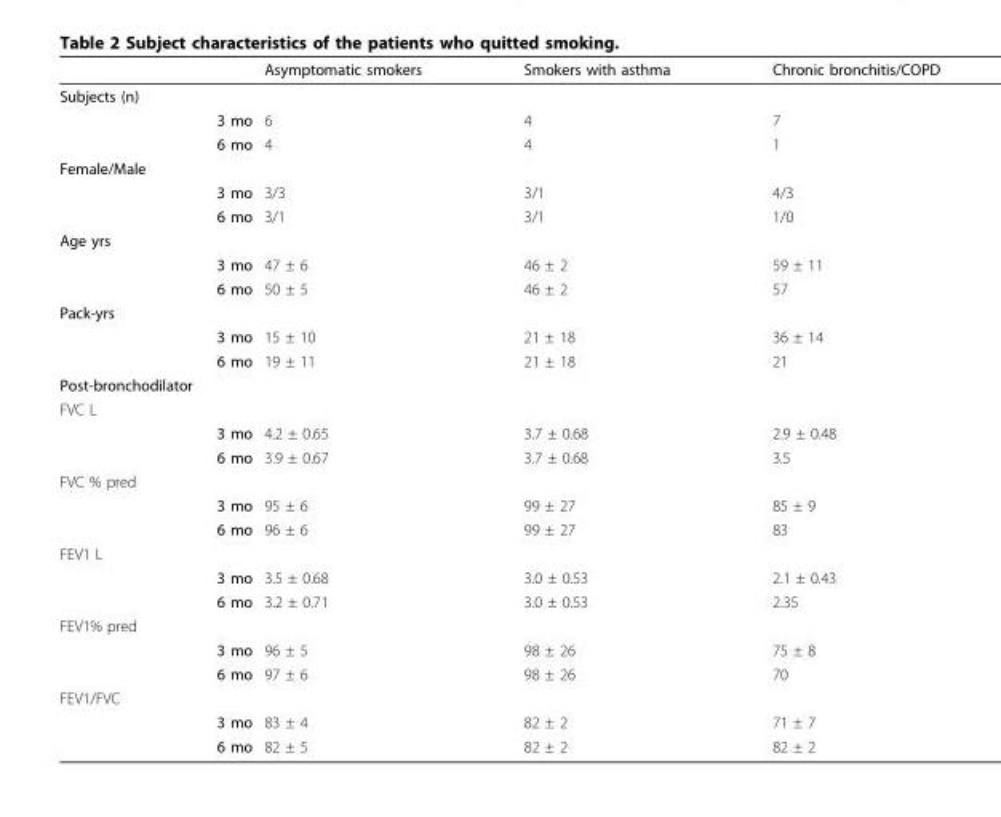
<table><thead><tr><td></td><td>Asymptomatic smokers</td><td>Smokers with asthma</td><td>Chronic bronchitis/COPD</td></tr></thead><tbody><tr><td colspan="4">Subjects (n)</td></tr><tr><td>3 mo</td><td>6</td><td>4</td><td>7</td></tr><tr><td>6 mo</td><td>4</td><td>4</td><td>1</td></tr><tr><td colspan="4">Female/Male</td></tr><tr><td>3 mo</td><td>3/3</td><td>3/1</td><td>4/3</td></tr><tr><td>6 mo</td><td>3/1</td><td>3/1</td><td>1/0</td></tr><tr><td colspan="4">Age yrs</td></tr><tr><td>3 mo</td><td>47 ± 6</td><td>46 ± 2</td><td>59 ± 11</td></tr><tr><td>6 mo</td><td>50 ± 5</td><td>46 ± 2</td><td>57</td></tr><tr><td colspan="4">Pack-yrs</td></tr><tr><td>3 mo</td><td>15 ± 10</td><td>21 ± 18</td><td>36 ± 14</td></tr><tr><td>6 mo</td><td>19 ± 11</td><td>21 ± 18</td><td>21</td></tr><tr><td colspan="4">Post-bronchodilator</td></tr><tr><td colspan="4">FVC L</td></tr><tr><td>3 mo</td><td>4.2 ± 0.65</td><td>3.7 ± 0.68</td><td>2.9 ± 0.48</td></tr><tr><td>6 mo</td><td>3.9 ± 0.67</td><td>3.7 ± 0.68</td><td>3.5</td></tr><tr><td colspan="4">FVC % pred</td></tr><tr><td>3 mo</td><td>95 ± 6</td><td>99 ± 27</td><td>85 ± 9</td></tr><tr><td>6 mo</td><td>96 ± 6</td><td>99 ± 27</td><td>83</td></tr><tr><td colspan="4">FEV1 L</td></tr><tr><td>3 mo</td><td>3.5 ± 0.68</td><td>3.0 ± 0.53</td><td>2.1 ± 0.43</td></tr><tr><td>6 mo</td><td>3.2 ± 0.71</td><td>3.0 ± 0.53</td><td>2.35</td></tr><tr><td colspan="4">FEV1% pred</td></tr><tr><td>3 mo</td><td>96 ± 5</td><td>98 ± 26</td><td>75 ± 8</td></tr><tr><td>6 mo</td><td>97 ± 6</td><td>98 ± 26</td><td>70</td></tr><tr><td colspan="4">FEV1/FVC</td></tr><tr><td>3 mo</td><td>83 ± 4</td><td>82 ± 2</td><td>71 ± 7</td></tr><tr><td>6 mo</td><td>82 ± 5</td><td>82 ± 2</td><td>82 ± 2</td></tr></tbody></table>